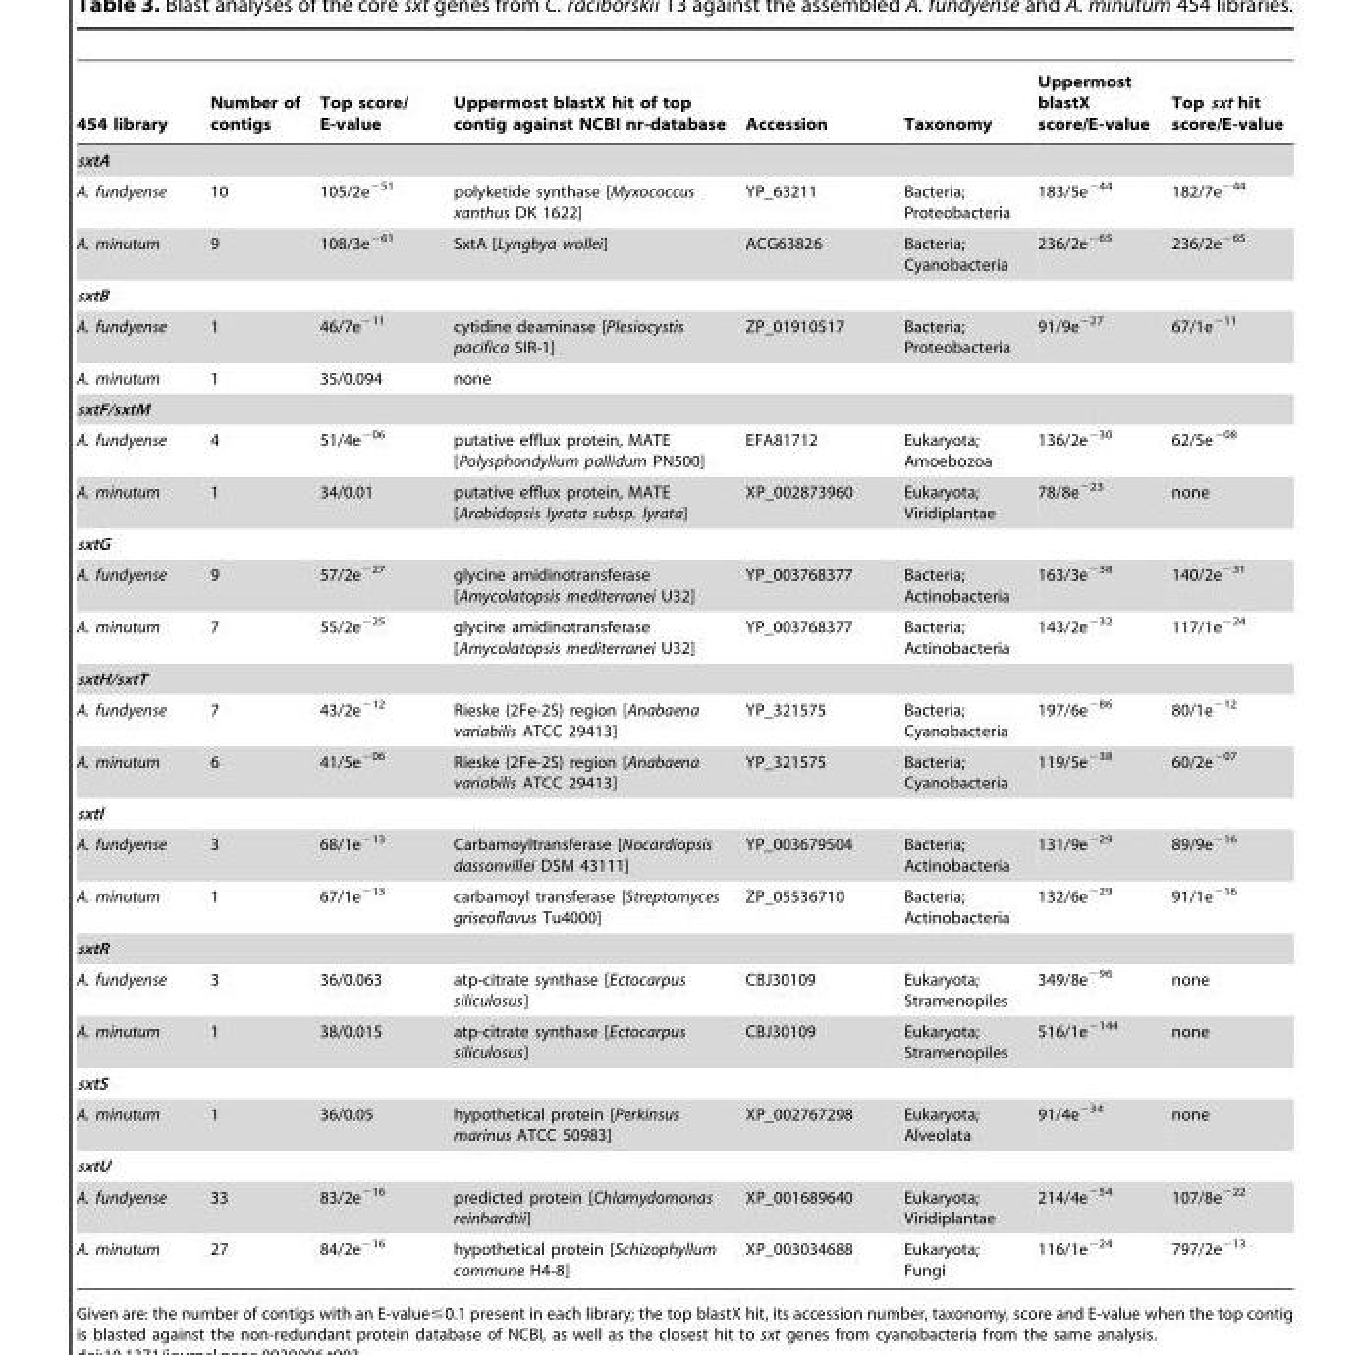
<table><thead><tr><td>454 library</td><td>Number of contigs</td><td>Top score/ E-value</td><td>Uppermost blastX hit of top contig against NCBI nr-database</td><td>Accession</td><td>Taxonomy</td><td>Uppermost blastX score/E-value</td><td>Top sxt hit score/E-value</td></tr></thead><tbody><tr><td colspan="8">sxtA</td></tr><tr><td>A. fundyense</td><td>10</td><td>105/2e<sup>−51</sup></td><td>polyketide synthase [Myxococcus xanthus DK 1622]</td><td>YP_63211</td><td>Bacteria; Proteobacteria</td><td>183/5e<sup>−44</sup></td><td>182/7e<sup>−44</sup></td></tr><tr><td>A. minutum</td><td>9</td><td>108/3e<sup>−61</sup></td><td>SxtA [Lyngbya wollei]</td><td>ACG63826</td><td>Bacteria; Cyanobacteria</td><td>236/2e<sup>−65</sup></td><td>236/2e<sup>−65</sup></td></tr><tr><td colspan="8">sxtB</td></tr><tr><td>A. fundyense</td><td>1</td><td>46/7e<sup>−11</sup></td><td>cytidine deaminase [Plesiocystis pacifica SIR-1]</td><td>ZP_01910517</td><td>Bacteria; Proteobacteria</td><td>91/9e<sup>−27</sup></td><td>67/1e<sup>−11</sup></td></tr><tr><td>A. minutum</td><td>1</td><td>35/0.094</td><td>none</td><td></td><td></td><td></td><td></td></tr><tr><td colspan="8">sxtF/sxtM</td></tr><tr><td>A. fundyense</td><td>4</td><td>51/4e<sup>−06</sup></td><td>putative efflux protein, MATE [Polysphondylium pallidum PN500]</td><td>EFA81712</td><td>Eukaryota; Amoebozoa</td><td>136/2e<sup>−30</sup></td><td>62/5e<sup>−08</sup></td></tr><tr><td>A. minutum</td><td>1</td><td>34/0.01</td><td>putative efflux protein, MATE [Arabidopsis lyrata subsp. lyrata]</td><td>XP_002873960</td><td>Eukaryota; Viridiplantae</td><td>78/8e<sup>−23</sup></td><td>none</td></tr><tr><td colspan="8">sxtG</td></tr><tr><td>A. fundyense</td><td>9</td><td>57/2e<sup>−27</sup></td><td>glycine amidinotransferase [Amycolatopsis mediterranei U32]</td><td>YP_003768377</td><td>Bacteria; Actinobacteria</td><td>163/3e<sup>−38</sup></td><td>140/2e<sup>−31</sup></td></tr><tr><td>A. minutum</td><td>7</td><td>55/2e<sup>−25</sup></td><td>glycine amidinotransferase [Amycolatopsis mediterranei U32]</td><td>YP_003768377</td><td>Bacteria; Actinobacteria</td><td>143/2e<sup>−32</sup></td><td>117/1e<sup>−24</sup></td></tr><tr><td colspan="8">sxtH/sxtT</td></tr><tr><td>A. fundyense</td><td>7</td><td>43/2e<sup>−12</sup></td><td>Rieske (2Fe-2S) region [Anabaena variabilis ATCC 29413]</td><td>YP_321575</td><td>Bacteria; Cyanobacteria</td><td>197/6e<sup>−86</sup></td><td>80/1e<sup>−12</sup></td></tr><tr><td>A. minutum</td><td>6</td><td>41/5e<sup>−06</sup></td><td>Rieske (2Fe-2S) region [Anabaena variabilis ATCC 29413]</td><td>YP_321575</td><td>Bacteria; Cyanobacteria</td><td>119/5e<sup>−38</sup></td><td>60/2e<sup>−07</sup></td></tr><tr><td colspan="8">sxtI</td></tr><tr><td>A. fundyense</td><td>3</td><td>68/1e<sup>−13</sup></td><td>Carbamoyltransferase [Nocardiopsis dassonvillei DSM 43111]</td><td>YP_003679504</td><td>Bacteria; Actinobacteria</td><td>131/9e<sup>−29</sup></td><td>89/9e<sup>−16</sup></td></tr><tr><td>A. minutum</td><td>1</td><td>67/1e<sup>−13</sup></td><td>carbamoyl transferase [Streptomyces griseoflavus Tu4000]</td><td>ZP_05536710</td><td>Bacteria; Actinobacteria</td><td>132/6e<sup>−29</sup></td><td>91/1e<sup>−16</sup></td></tr><tr><td colspan="8">sxtR</td></tr><tr><td>A. fundyense</td><td>3</td><td>36/0.063</td><td>atp-citrate synthase [Ectocarpus siliculosus]</td><td>CBJ30109</td><td>Eukaryota; Stramenopiles</td><td>349/8e<sup>−96</sup></td><td>none</td></tr><tr><td>A. minutum</td><td>1</td><td>38/0.015</td><td>atp-citrate synthase [Ectocarpus siliculosus]</td><td>CBJ30109</td><td>Eukaryota; Stramenopiles</td><td>516/1e<sup>−144</sup></td><td>none</td></tr><tr><td colspan="8">sxtS</td></tr><tr><td>A. minutum</td><td>1</td><td>36/0.05</td><td>hypothetical protein [Perkinsus marinus ATCC 50983]</td><td>XP_002767298</td><td>Eukaryota; Alveolata</td><td>91/4e<sup>−34</sup></td><td>none</td></tr><tr><td colspan="8">sxtU</td></tr><tr><td>A. fundyense</td><td>33</td><td>83/2e<sup>−16</sup></td><td>predicted protein [Chlamydomonas reinhardtii]</td><td>XP_001689640</td><td>Eukaryota; Viridiplantae</td><td>214/4e<sup>−54</sup></td><td>107/8e<sup>−22</sup></td></tr><tr><td>A. minutum</td><td>27</td><td>84/2e<sup>−16</sup></td><td>hypothetical protein [Schizophyllum commune H4-8]</td><td>XP_003034688</td><td>Eukaryota; Fungi</td><td>116/1e<sup>−24</sup></td><td>797/2e<sup>−13</sup></td></tr></tbody></table>